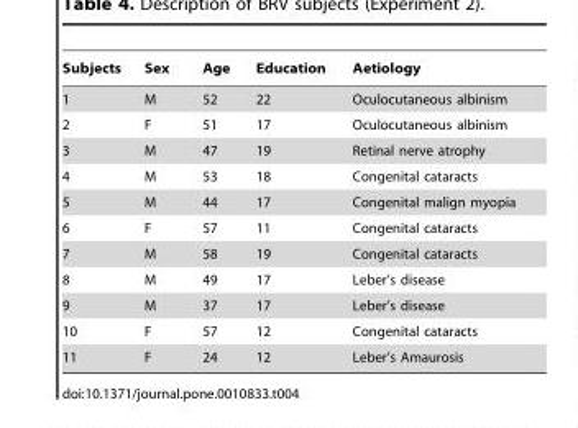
<table><thead><tr><td>Subjects</td><td>Sex</td><td>Age</td><td>Education</td><td>Aetiology</td></tr></thead><tbody><tr><td>1</td><td>M</td><td>52</td><td>22</td><td>Oculocutaneous albinism</td></tr><tr><td>2</td><td>F</td><td>51</td><td>17</td><td>Oculocutaneous albinism</td></tr><tr><td>3</td><td>M</td><td>47</td><td>19</td><td>Retinal nerve atrophy</td></tr><tr><td>4</td><td>M</td><td>53</td><td>18</td><td>Congenital cataracts</td></tr><tr><td>5</td><td>M</td><td>44</td><td>17</td><td>Congenital malign myopia</td></tr><tr><td>6</td><td>F</td><td>57</td><td>11</td><td>Congenital cataracts</td></tr><tr><td>7</td><td>M</td><td>58</td><td>19</td><td>Congenital cataracts</td></tr><tr><td>8</td><td>M</td><td>49</td><td>17</td><td>Leber’s disease</td></tr><tr><td>9</td><td>M</td><td>37</td><td>17</td><td>Leber’s disease</td></tr><tr><td>10</td><td>F</td><td>57</td><td>12</td><td>Congenital cataracts</td></tr><tr><td>11</td><td>F</td><td>24</td><td>12</td><td>Leber’s Amaurosis</td></tr></tbody></table>